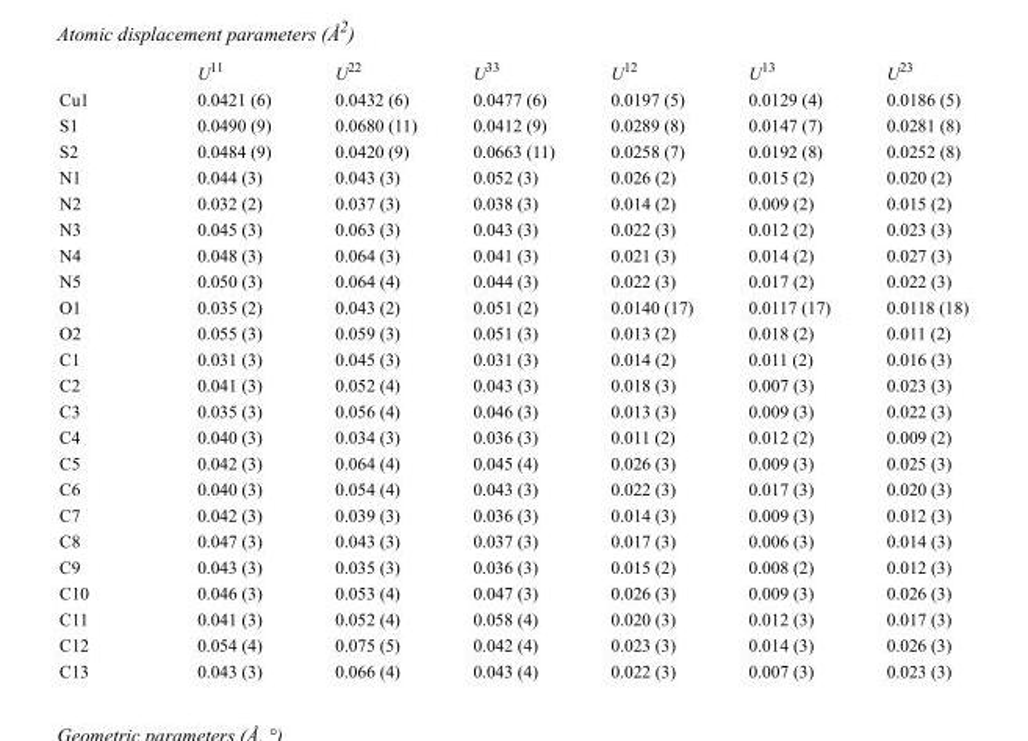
<table><thead><tr><td></td><td>U<sup>11</sup></td><td>U<sup>22</sup></td><td>U<sup>33</sup></td><td>U<sup>12</sup></td><td>U<sup>13</sup></td><td>U<sup>23</sup></td></tr></thead><tbody><tr><td>Cu1</td><td>0.0421 (6)</td><td>0.0432 (6)</td><td>0.0477 (6)</td><td>0.0197 (5)</td><td>0.0129 (4)</td><td>0.0186 (5)</td></tr><tr><td>S1</td><td>0.0490 (9)</td><td>0.0680 (11)</td><td>0.0412 (9)</td><td>0.0289 (8)</td><td>0.0147 (7)</td><td>0.0281 (8)</td></tr><tr><td>S2</td><td>0.0484 (9)</td><td>0.0420 (9)</td><td>0.0663 (11)</td><td>0.0258 (7)</td><td>0.0192 (8)</td><td>0.0252 (8)</td></tr><tr><td>N1</td><td>0.044 (3)</td><td>0.043 (3)</td><td>0.052 (3)</td><td>0.026 (2)</td><td>0.015 (2)</td><td>0.020 (2)</td></tr><tr><td>N2</td><td>0.032 (2)</td><td>0.037 (3)</td><td>0.038 (3)</td><td>0.014 (2)</td><td>0.009 (2)</td><td>0.015 (2)</td></tr><tr><td>N3</td><td>0.045 (3)</td><td>0.063 (3)</td><td>0.043 (3)</td><td>0.022 (3)</td><td>0.012 (2)</td><td>0.023 (3)</td></tr><tr><td>N4</td><td>0.048 (3)</td><td>0.064 (3)</td><td>0.041 (3)</td><td>0.021 (3)</td><td>0.014 (2)</td><td>0.027 (3)</td></tr><tr><td>N5</td><td>0.050 (3)</td><td>0.064 (4)</td><td>0.044 (3)</td><td>0.022 (3)</td><td>0.017 (2)</td><td>0.022 (3)</td></tr><tr><td>O1</td><td>0.035 (2)</td><td>0.043 (2)</td><td>0.051 (2)</td><td>0.0140 (17)</td><td>0.0117 (17)</td><td>0.0118 (18)</td></tr><tr><td>O2</td><td>0.055 (3)</td><td>0.059 (3)</td><td>0.051 (3)</td><td>0.013 (2)</td><td>0.018 (2)</td><td>0.011 (2)</td></tr><tr><td>C1</td><td>0.031 (3)</td><td>0.045 (3)</td><td>0.031 (3)</td><td>0.014 (2)</td><td>0.011 (2)</td><td>0.016 (3)</td></tr><tr><td>C2</td><td>0.041 (3)</td><td>0.052 (4)</td><td>0.043 (3)</td><td>0.018 (3)</td><td>0.007 (3)</td><td>0.023 (3)</td></tr><tr><td>C3</td><td>0.035 (3)</td><td>0.056 (4)</td><td>0.046 (3)</td><td>0.013 (3)</td><td>0.009 (3)</td><td>0.022 (3)</td></tr><tr><td>C4</td><td>0.040 (3)</td><td>0.034 (3)</td><td>0.036 (3)</td><td>0.011 (2)</td><td>0.012 (2)</td><td>0.009 (2)</td></tr><tr><td>C5</td><td>0.042 (3)</td><td>0.064 (4)</td><td>0.045 (4)</td><td>0.026 (3)</td><td>0.009 (3)</td><td>0.025 (3)</td></tr><tr><td>C6</td><td>0.040 (3)</td><td>0.054 (4)</td><td>0.043 (3)</td><td>0.022 (3)</td><td>0.017 (3)</td><td>0.020 (3)</td></tr><tr><td>C7</td><td>0.042 (3)</td><td>0.039 (3)</td><td>0.036 (3)</td><td>0.014 (3)</td><td>0.009 (3)</td><td>0.012 (3)</td></tr><tr><td>C8</td><td>0.047 (3)</td><td>0.043 (3)</td><td>0.037 (3)</td><td>0.017 (3)</td><td>0.006 (3)</td><td>0.014 (3)</td></tr><tr><td>C9</td><td>0.043 (3)</td><td>0.035 (3)</td><td>0.036 (3)</td><td>0.015 (2)</td><td>0.008 (2)</td><td>0.012 (3)</td></tr><tr><td>C10</td><td>0.046 (3)</td><td>0.053 (4)</td><td>0.047 (3)</td><td>0.026 (3)</td><td>0.009 (3)</td><td>0.026 (3)</td></tr><tr><td>C11</td><td>0.041 (3)</td><td>0.052 (4)</td><td>0.058 (4)</td><td>0.020 (3)</td><td>0.012 (3)</td><td>0.017 (3)</td></tr><tr><td>C12</td><td>0.054 (4)</td><td>0.075 (5)</td><td>0.042 (4)</td><td>0.023 (3)</td><td>0.014 (3)</td><td>0.026 (3)</td></tr><tr><td>C13</td><td>0.043 (3)</td><td>0.066 (4)</td><td>0.043 (4)</td><td>0.022 (3)</td><td>0.007 (3)</td><td>0.023 (3)</td></tr></tbody></table>